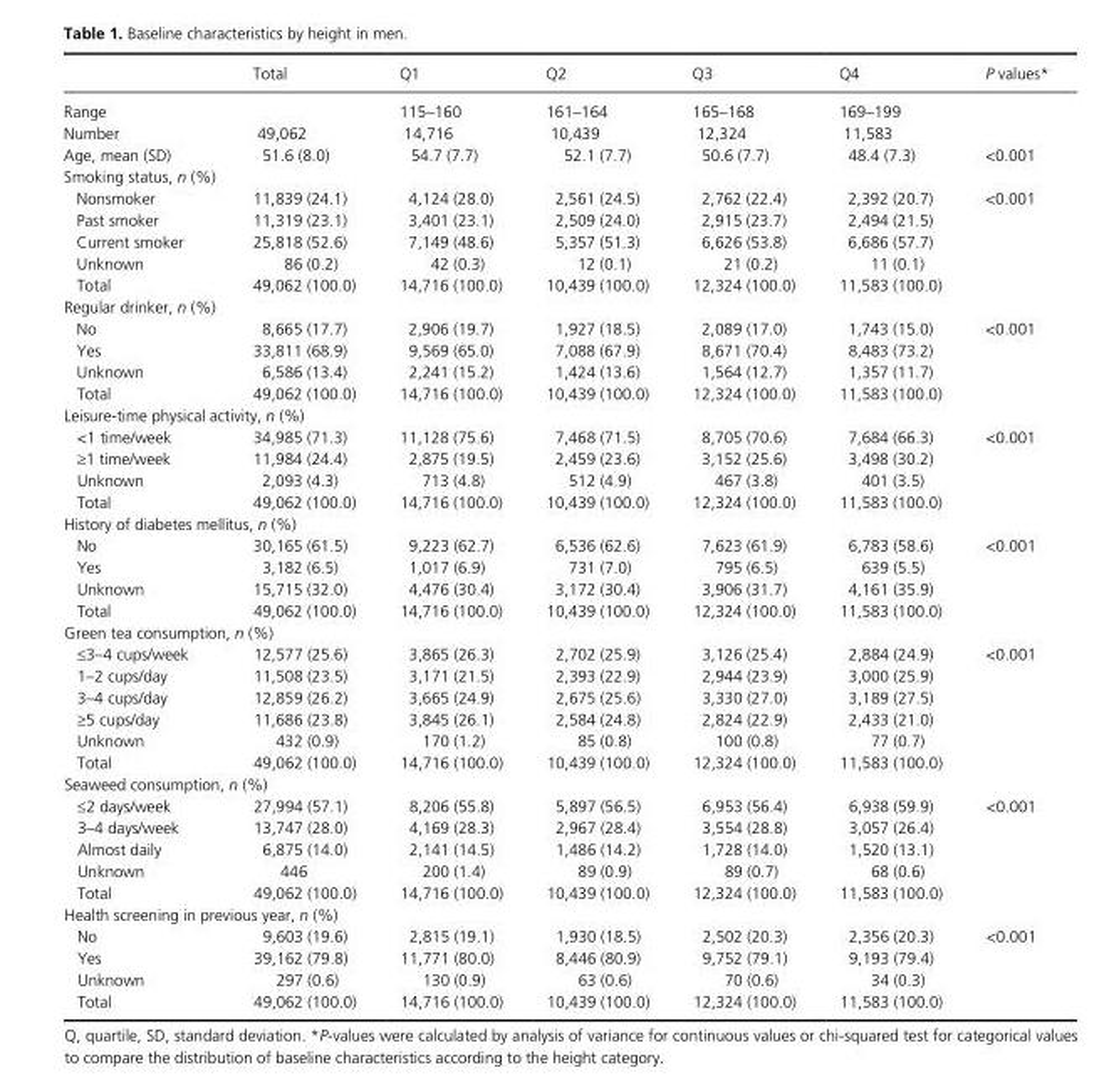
<table><thead><tr><td></td><td>Total</td><td>Q1</td><td>Q2</td><td>Q3</td><td>Q4</td><td>P values*</td></tr></thead><tbody><tr><td>Range</td><td></td><td>115–160</td><td>161–164</td><td>165–168</td><td>169–199</td><td></td></tr><tr><td>Number</td><td>49,062</td><td>14,716</td><td>10,439</td><td>12,324</td><td>11,583</td><td></td></tr><tr><td>Age, mean (SD)</td><td>51.6 (8.0)</td><td>54.7 (7.7)</td><td>52.1 (7.7)</td><td>50.6 (7.7)</td><td>48.4 (7.3)</td><td>&lt;0.001</td></tr><tr><td colspan="7">Smoking status, n (%)</td></tr><tr><td>Nonsmoker</td><td>11,839 (24.1)</td><td>4,124 (28.0)</td><td>2,561 (24.5)</td><td>2,762 (22.4)</td><td>2,392 (20.7)</td><td rowspan="5">&lt;0.001</td></tr><tr><td>Past smoker</td><td>11,319 (23.1)</td><td>3,401 (23.1)</td><td>2,509 (24.0)</td><td>2,915 (23.7)</td><td>2,494 (21.5)</td></tr><tr><td>Current smoker</td><td>25,818 (52.6)</td><td>7,149 (48.6)</td><td>5,357 (51.3)</td><td>6,626 (53.8)</td><td>6,686 (57.7)</td></tr><tr><td>Unknown</td><td>86 (0.2)</td><td>42 (0.3)</td><td>12 (0.1)</td><td>21 (0.2)</td><td>11 (0.1)</td></tr><tr><td>Total</td><td>49,062 (100.0)</td><td>14,716 (100.0)</td><td>10,439 (100.0)</td><td>12,324 (100.0)</td><td>11,583 (100.0)</td></tr><tr><td colspan="7">Regular drinker, n (%)</td></tr><tr><td>No</td><td>8,665 (17.7)</td><td>2,906 (19.7)</td><td>1,927 (18.5)</td><td>2,089 (17.0)</td><td>1,743 (15.0)</td><td rowspan="4">&lt;0.001</td></tr><tr><td>Yes</td><td>33,811 (68.9)</td><td>9,569 (65.0)</td><td>7,088 (67.9)</td><td>8,671 (70.4)</td><td>8,483 (73.2)</td></tr><tr><td>Unknown</td><td>6,586 (13.4)</td><td>2,241 (15.2)</td><td>1,424 (13.6)</td><td>1,564 (12.7)</td><td>1,357 (11.7)</td></tr><tr><td>Total</td><td>49,062 (100.0)</td><td>14,716 (100.0)</td><td>10,439 (100.0)</td><td>12,324 (100.0)</td><td>11,583 (100.0)</td></tr><tr><td colspan="7">Leisure- time physical activity, n (%)</td></tr><tr><td>&lt;1 time/week</td><td>34,985 (71.3)</td><td>11,128 (75.6)</td><td>7,468 (71.5)</td><td>8,705 (70.6)</td><td>7,684 (66.3)</td><td rowspan="4">&lt;0.001</td></tr><tr><td>≥1 time/week</td><td>11,984 (24.4)</td><td>2,875 (19.5)</td><td>2,459 (23.6)</td><td>3,152 (25.6)</td><td>3,498 (30.2)</td></tr><tr><td>Unknown</td><td>2,093 (4.3)</td><td>713 (4.8)</td><td>512 (4.9)</td><td>467 (3.8)</td><td>401 (3.5)</td></tr><tr><td>Total</td><td>49,062 (100.0)</td><td>14,716 (100.0)</td><td>10,439 (100.0)</td><td>12,324 (100.0)</td><td>11,583 (100.0)</td></tr><tr><td colspan="7">History of diabetes mellitus, n (%)</td></tr><tr><td>No</td><td>30,165 (61.5)</td><td>9,223 (62.7)</td><td>6,536 (62.6)</td><td>7,623 (61.9)</td><td>6,783 (58.6)</td><td rowspan="4">&lt;0.001</td></tr><tr><td>Yes</td><td>3,182 (6.5)</td><td>1,017 (6.9)</td><td>731 (7.0)</td><td>795 (6.5)</td><td>639 (5.5)</td></tr><tr><td>Unknown</td><td>15,715 (32.0)</td><td>4,476 (30.4)</td><td>3,172 (30.4)</td><td>3,906 (31.7)</td><td>4,161 (35.9)</td></tr><tr><td>Total</td><td>49,062 (100.0)</td><td>14,716 (100.0)</td><td>10,439 (100.0)</td><td>12,324 (100.0)</td><td>11,583 (100.0)</td></tr><tr><td colspan="7">Green tea consumption, n (%)</td></tr><tr><td>≤3–4 cups/week</td><td>12,577 (25.6)</td><td>3,865 (26.3)</td><td>2,702 (25.9)</td><td>3,126 (25.4)</td><td>2,884 (24.9)</td><td rowspan="6">&lt;0.001</td></tr><tr><td>1–2 cups/day</td><td>11,508 (23.5)</td><td>3,171 (21.5)</td><td>2,393 (22.9)</td><td>2,944 (23.9)</td><td>3,000 (25.9)</td></tr><tr><td>3–4 cups/day</td><td>12,859 (26.2)</td><td>3,665 (24.9)</td><td>2,675 (25.6)</td><td>3,330 (27.0)</td><td>3,189 (27.5)</td></tr><tr><td>≥5 cups/day</td><td>11,686 (23.8)</td><td>3,845 (26.1)</td><td>2,584 (24.8)</td><td>2,824 (22.9)</td><td>2,433 (21.0)</td></tr><tr><td>Unknown</td><td>432 (0.9)</td><td>170 (1.2)</td><td>85 (0.8)</td><td>100 (0.8)</td><td>77 (0.7)</td></tr><tr><td>Total</td><td>49,062 (100.0)</td><td>14,716 (100.0)</td><td>10,439 (100.0)</td><td>12,324 (100.0)</td><td>11,583 (100.0)</td></tr><tr><td colspan="7">Seaweed consumption, n (%)</td></tr><tr><td>≤2 days/week</td><td>27,994 (57.1)</td><td>8,206 (55.8)</td><td>5,897 (56.5)</td><td>6,953 (56.4)</td><td>6,938 (59.9)</td><td rowspan="5">&lt;0.001</td></tr><tr><td>3–4 days/week</td><td>13,747 (28.0)</td><td>4,169 (28.3)</td><td>2,967 (28.4)</td><td>3,554 (28.8)</td><td>3,057 (26.4)</td></tr><tr><td>Almost daily</td><td>6,875 (14.0)</td><td>2,141 (14.5)</td><td>1,486 (14.2)</td><td>1,728 (14.0)</td><td>1,520 (13.1)</td></tr><tr><td>Unknown</td><td>446</td><td>200 (1.4)</td><td>89 (0.9)</td><td>89 (0.7)</td><td>68 (0.6)</td></tr><tr><td>Total</td><td>49,062 (100.0)</td><td>14,716 (100.0)</td><td>10,439 (100.0)</td><td>12,324 (100.0)</td><td>11,583 (100.0)</td></tr><tr><td colspan="7">Health screening in previous year, n (%)</td></tr><tr><td>No</td><td>9,603 (19.6)</td><td>2,815 (19.1)</td><td>1,930 (18.5)</td><td>2,502 (20.3)</td><td>2,356 (20.3)</td><td rowspan="4">&lt;0.001</td></tr><tr><td>Yes</td><td>39,162 (79.8)</td><td>11,771 (80.0)</td><td>8,446 (80.9)</td><td>9,752 (79.1)</td><td>9,193 (79.4)</td></tr><tr><td>Unknown</td><td>297 (0.6)</td><td>130 (0.9)</td><td>63 (0.6)</td><td>70 (0.6)</td><td>34 (0.3)</td></tr><tr><td>Total</td><td>49,062 (100.0)</td><td>14,716 (100.0)</td><td>10,439 (100.0)</td><td>12,324 (100.0)</td><td>11,583 (100.0)</td></tr></tbody></table>